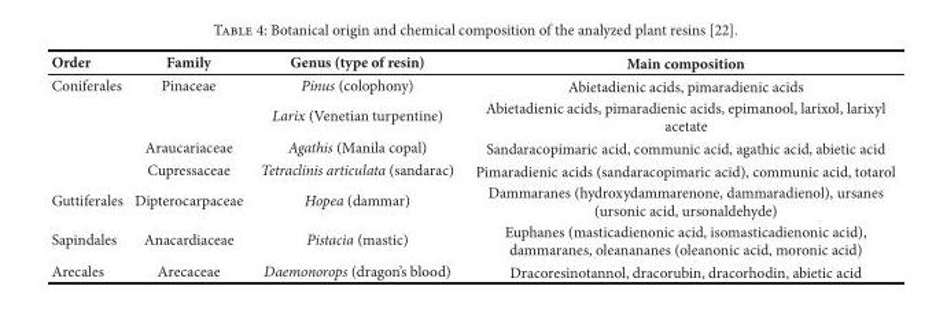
<table><thead><tr><td>Order</td><td>Family</td><td>Genus (type of resin)</td><td>Main composition</td></tr></thead><tbody><tr><td rowspan="4">Coniferales</td><td>Pinaceae</td><td>Pinus (colophony)</td><td>Abietadienic acids, pimaradienic acids</td></tr><tr><td></td><td>Larix (Venetian turpentine)</td><td>Abietadienic acids, pimaradienic acids, epimanool, larixol, larixyl acetate</td></tr><tr><td>Araucariaceae</td><td>Agathis (Manila copal)</td><td>Sandaracopimaric acid, communic acid, agathic acid, abietic acid</td></tr><tr><td>Cupressaceae</td><td>Tetraclinis articulata (sandarac)</td><td>Pimaradienic acids (sandaracopimaric acid), communic acid, totarol</td></tr><tr><td>Guttiferales</td><td>Dipterocarpaceae</td><td>Hopea (dammar)</td><td>Dammaranes (hydroxydammarenone, dammaradienol), ursanes (ursonic acid, ursonaldehyde)</td></tr><tr><td>Sapindales</td><td>Anacardiaceae</td><td>Pistacia (mastic)</td><td>Euphanes (masticadienonic acid, isomasticadienonic acid), dammaranes, oleanananes (oleanonic acid, moronic acid)</td></tr><tr><td>Arecales</td><td>Arecaceae</td><td>Daemonorops (dragon’s blood)</td><td>Dracoresinotannol, dracorubin, dracorhodin, abietic acid</td></tr></tbody></table>